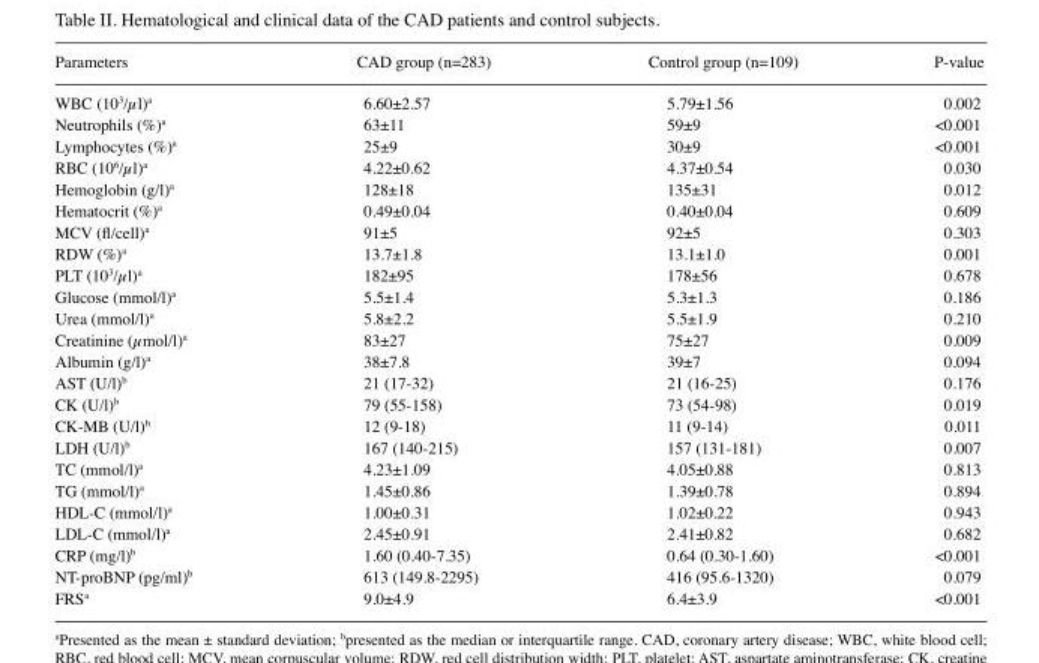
<table><thead><tr><td>Parameters</td><td>CAD group (n=283)</td><td>Control group (n=109)</td><td>P-value</td></tr></thead><tbody><tr><td>WBC (10<sup>3</sup>/µl)<sup>a</sup></td><td>6.60±2.57</td><td>5.79±1.56</td><td>0.002</td></tr><tr><td>Neutrophils (%)<sup>a</sup></td><td>63±11</td><td>59±9</td><td>&lt;0.001</td></tr><tr><td>Lymphocytes (%)<sup>a</sup></td><td>25±9</td><td>30±9</td><td>&lt;0.001</td></tr><tr><td>RBC (10<sup>6</sup>/µl)<sup>a</sup></td><td>4.22±0.62</td><td>4.37±0.54</td><td>0.030</td></tr><tr><td>Hemoglobin (g/l)<sup>a</sup></td><td>128±18</td><td>135±31</td><td>0.012</td></tr><tr><td>Hematocrit (%)<sup>a</sup></td><td>0.49±0.04</td><td>0.40±0.04</td><td>0.609</td></tr><tr><td>MCV (fl/cell)<sup>a</sup></td><td>91±5</td><td>92±5</td><td>0.303</td></tr><tr><td>RDW (%)<sup>a</sup></td><td>13.7±1.8</td><td>13.1±1.0</td><td>0.001</td></tr><tr><td>PLT (10<sup>3</sup>/µl)<sup>a</sup></td><td>182±95</td><td>178±56</td><td>0.678</td></tr><tr><td>Glucose (mmol/l)<sup>a</sup></td><td>5.5±1.4</td><td>5.3±1.3</td><td>0.186</td></tr><tr><td>Urea (mmol/l)<sup>a</sup></td><td>5.8±2.2</td><td>5.5±1.9</td><td>0.210</td></tr><tr><td>Creatinine (µmol/l)<sup>a</sup></td><td>83±27</td><td>75±27</td><td>0.009</td></tr><tr><td>Albumin (g/l)<sup>a</sup></td><td>38±7.8</td><td>39±7</td><td>0.094</td></tr><tr><td>AST (U/l)<sup>b</sup></td><td>21 (17-32)</td><td>21 (16-25)</td><td>0.176</td></tr><tr><td>CK (U/l)<sup>b</sup></td><td>79 (55-158)</td><td>73 (54-98)</td><td>0.019</td></tr><tr><td>CK-MB (U/l)<sup>b</sup></td><td>12 (9-18)</td><td>11 (9-14)</td><td>0.011</td></tr><tr><td>LDH (U/l)<sup>b</sup></td><td>167 (140-215)</td><td>157 (131-181)</td><td>0.007</td></tr><tr><td>TC (mmol/l)<sup>a</sup></td><td>4.23±1.09</td><td>4.05±0.88</td><td>0.813</td></tr><tr><td>TG (mmol/l)<sup>a</sup></td><td>1.45±0.86</td><td>1.39±0.78</td><td>0.894</td></tr><tr><td>HDL-C (mmol/l)<sup>a</sup></td><td>1.00±0.31</td><td>1.02±0.22</td><td>0.943</td></tr><tr><td>LDL-C (mmol/l)<sup>a</sup></td><td>2.45±0.91</td><td>2.41±0.82</td><td>0.682</td></tr><tr><td>CRP (mg/l)<sup>b</sup></td><td>1.60 (0.40-7.35)</td><td>0.64 (0.30-1.60)</td><td>&lt;0.001</td></tr><tr><td>NT-proBNP (pg/ml)<sup>b</sup></td><td>613 (149.8-2295)</td><td>416 (95.6-1320)</td><td>0.079</td></tr><tr><td>FRS<sup>a</sup></td><td>9.0±4.9</td><td>6.4±3.9</td><td>&lt;0.001</td></tr></tbody></table>